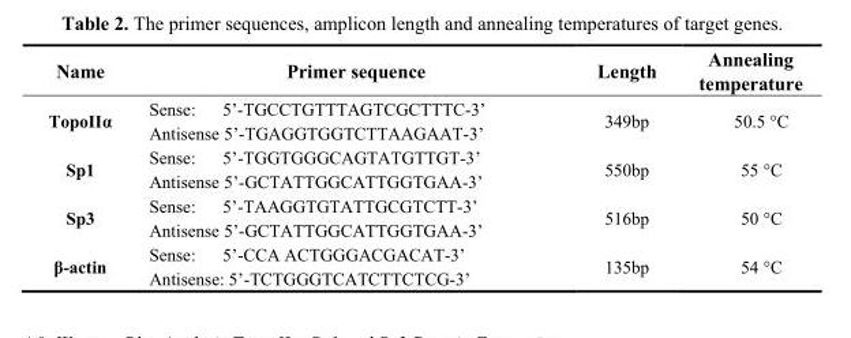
<table><thead><tr><td>Name</td><td>Primer sequence</td><td>Length</td><td>Annealing temperature</td></tr></thead><tbody><tr><td rowspan="2">TopoIIα</td><td>Sense: 5’-TGCCTGTTTAGTCGCTTTC-3’</td><td rowspan="2">349bp</td><td rowspan="2">50.5 °C</td></tr><tr><td>Antisense 5’-TGAGGTGGTCTTAAGAAT-3’</td></tr><tr><td rowspan="2">Sp1</td><td>Sense: 5’-TGGTGGGCAGTATGTTGT-3’</td><td rowspan="2">550bp</td><td rowspan="2">55 °C</td></tr><tr><td>Antisense 5’-GCTATTGGCATTGGTGAA-3’</td></tr><tr><td rowspan="2">Sp3</td><td>Sense: 5’-TAAGGTGTATTGCGTCTT-3’</td><td rowspan="2">516bp</td><td rowspan="2">50 °C</td></tr><tr><td>Antisense 5’-GCTATTGGCATTGGTGAA-3’</td></tr><tr><td rowspan="2">β-actin</td><td>Sense: 5’-CCA ACTGGGACGACAT-3’</td><td rowspan="2">135bp</td><td rowspan="2">54 °C</td></tr><tr><td>Antisense: 5’-TCTGGGTCATCTTCTCG-3’</td></tr></tbody></table>